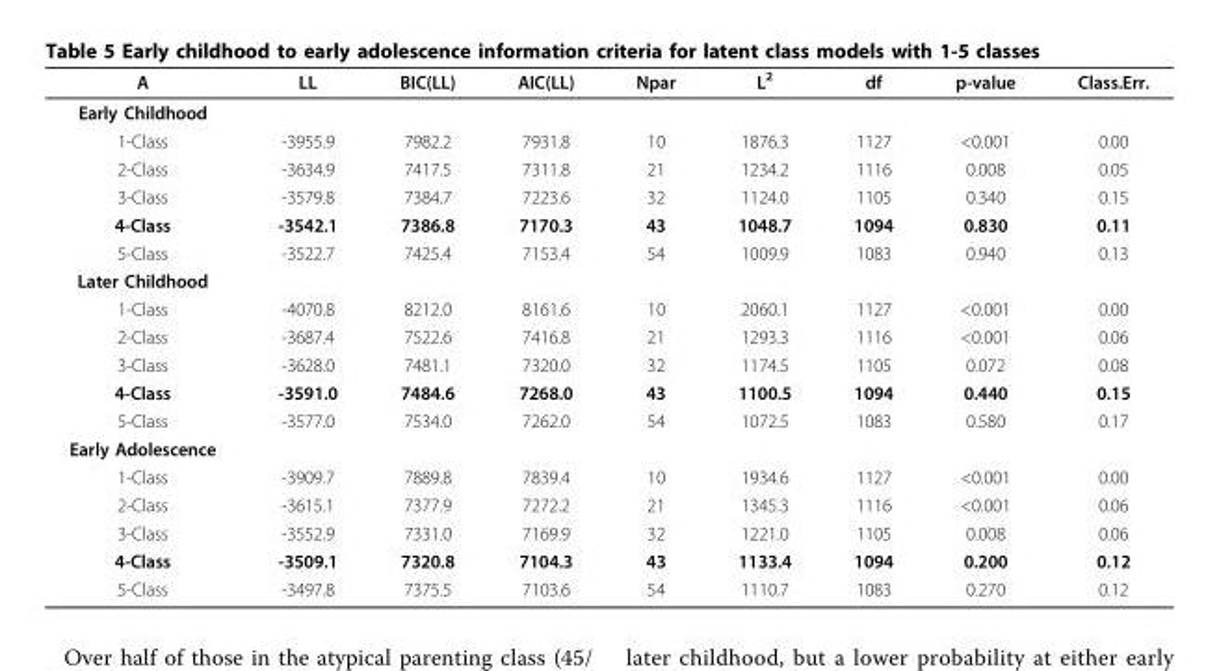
<table><thead><tr><td>A</td><td>LL</td><td>BIC(LL)</td><td>AIC(LL)</td><td>Npar</td><td>L<sup>2</sup></td><td>df</td><td>p-value</td><td>Class.Err.</td></tr></thead><tbody><tr><td colspan="9">Early Childhood</td></tr><tr><td>1-Class</td><td>-3955.9</td><td>7982.2</td><td>7931.8</td><td>10</td><td>1876.3</td><td>1127</td><td>&lt;0.001</td><td>0.00</td></tr><tr><td>2-Class</td><td>-3634.9</td><td>7417.5</td><td>7311.8</td><td>21</td><td>1234.2</td><td>1116</td><td>0.008</td><td>0.05</td></tr><tr><td>3-Class</td><td>-3579.8</td><td>7384.7</td><td>7223.6</td><td>32</td><td>1124.0</td><td>1105</td><td>0.340</td><td>0.15</td></tr><tr><td>4-Class</td><td>-3542.1</td><td>7386.8</td><td>7170.3</td><td>43</td><td>1048.7</td><td>1094</td><td>0.830</td><td>0.11</td></tr><tr><td>5-Class</td><td>-3522.7</td><td>7425.4</td><td>7153.4</td><td>54</td><td>1009.9</td><td>1083</td><td>0.940</td><td>0.13</td></tr><tr><td colspan="9">Later Childhood</td></tr><tr><td>1-Class</td><td>-4070.8</td><td>8212.0</td><td>8161.6</td><td>10</td><td>2060.1</td><td>1127</td><td>&lt;0.001</td><td>0.00</td></tr><tr><td>2-Class</td><td>-3687.4</td><td>7522.6</td><td>7416.8</td><td>21</td><td>1293.3</td><td>1116</td><td>&lt;0.001</td><td>0.06</td></tr><tr><td>3-Class</td><td>-3628.0</td><td>7481.1</td><td>7320.0</td><td>32</td><td>1174.5</td><td>1105</td><td>0.072</td><td>0.08</td></tr><tr><td>4-Class</td><td>-3591.0</td><td>7484.6</td><td>7268.0</td><td>43</td><td>1100.5</td><td>1094</td><td>0.440</td><td>0.15</td></tr><tr><td>5-Class</td><td>-3577.0</td><td>7534.0</td><td>7262.0</td><td>54</td><td>1072.5</td><td>1083</td><td>0.580</td><td>0.17</td></tr><tr><td colspan="9">Early Adolescence</td></tr><tr><td>1-Class</td><td>-3909.7</td><td>7889.8</td><td>7839.4</td><td>10</td><td>1934.6</td><td>1127</td><td>&lt;0.001</td><td>0.00</td></tr><tr><td>2-Class</td><td>-3615.1</td><td>7377.9</td><td>7272.2</td><td>21</td><td>1345.3</td><td>1116</td><td>&lt;0.001</td><td>0.06</td></tr><tr><td>3-Class</td><td>-3552.9</td><td>7331.0</td><td>7169.9</td><td>32</td><td>1221.0</td><td>1105</td><td>0.008</td><td>0.06</td></tr><tr><td>4-Class</td><td>-3509.1</td><td>7320.8</td><td>7104.3</td><td>43</td><td>1133.4</td><td>1094</td><td>0.200</td><td>0.12</td></tr><tr><td>5-Class</td><td>-3497.8</td><td>7375.5</td><td>7103.6</td><td>54</td><td>1110.7</td><td>1083</td><td>0.270</td><td>0.12</td></tr></tbody></table>